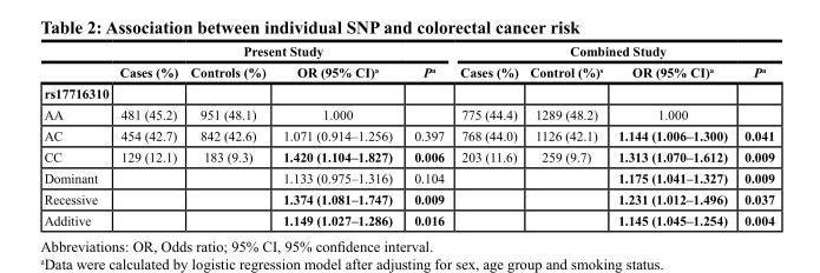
<table><thead><tr><td rowspan="2"></td><td colspan="4">Present Study</td><td colspan="4">Combined Study</td></tr><tr><td>Cases (%)</td><td>Controls (%)</td><td>OR (95% CI)<sup>a</sup></td><td>P<sup>a</sup></td><td>Cases (%)</td><td>Control (%)<sup>s</sup></td><td>OR (95% CI)<sup>a</sup></td><td>P<sup>a</sup></td></tr></thead><tbody><tr><td colspan="9">rs17716310</td></tr><tr><td>AA</td><td>481 (45.2)</td><td>951 (48.1)</td><td>1.000</td><td></td><td>775 (44.4)</td><td>1289 (48.2)</td><td>1.000</td><td></td></tr><tr><td>AC</td><td>454 (42.7)</td><td>842 (42.6)</td><td>1.071 (0.914–1.256)</td><td>0.397</td><td>768 (44.0)</td><td>1126 (42.1)</td><td>1.144 (1.006–1.300)</td><td>0.041</td></tr><tr><td>CC</td><td>129 (12.1)</td><td>183 (9.3)</td><td>1.420 (1.104–1.827)</td><td>0.006</td><td>203 (11.6)</td><td>259 (9.7)</td><td>1.313 (1.070–1.612)</td><td>0.009</td></tr><tr><td>Dominant</td><td></td><td></td><td>1.133 (0.975–1.316)</td><td>0.104</td><td></td><td></td><td>1.175 (1.041–1.327)</td><td>0.009</td></tr><tr><td>Recessive</td><td></td><td></td><td>1.374 (1.081–1.747)</td><td>0.009</td><td></td><td></td><td>1.231 (1.012–1.496)</td><td>0.037</td></tr><tr><td>Additive</td><td></td><td></td><td>1.149 (1.027–1.286)</td><td>0.016</td><td></td><td></td><td>1.145 (1.045–1.254)</td><td>0.004</td></tr></tbody></table>